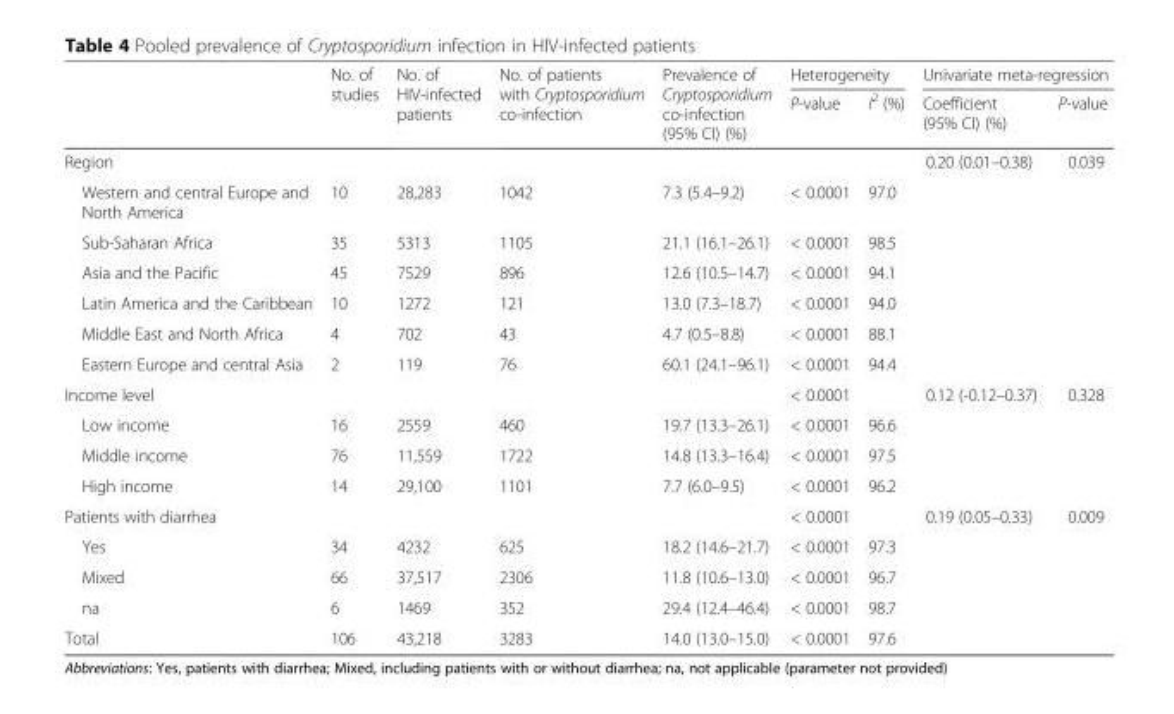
<table><thead><tr><td rowspan="2"></td><td rowspan="2">No. of studies</td><td rowspan="2">No. of HIV-infected patients</td><td rowspan="2">No. of patients with Cryptosporidium co-infection</td><td rowspan="2">Prevalence of Cryptosporidium co-infection (95% CI) (%)</td><td colspan="2">Heterogeneity</td><td colspan="2">Univariate meta-regression</td></tr><tr><td>P-value</td><td>I<sup>2</sup> (%)</td><td>Coefficient (95% CI) (%)</td><td>P-value</td></tr></thead><tbody><tr><td>Region</td><td></td><td></td><td></td><td></td><td></td><td></td><td>0.20 (0.01–0.38)</td><td>0.039</td></tr><tr><td>Western and central Europe and North America</td><td>10</td><td>28,283</td><td>1042</td><td>7.3 (5.4–9.2)</td><td>&lt; 0.0001</td><td>97.0</td><td></td><td></td></tr><tr><td>Sub-Saharan Africa</td><td>35</td><td>5313</td><td>1105</td><td>21.1 (16.1–26.1)</td><td>&lt; 0.0001</td><td>98.5</td><td></td><td></td></tr><tr><td>Asia and the Pacific</td><td>45</td><td>7529</td><td>896</td><td>12.6 (10.5–14.7)</td><td>&lt; 0.0001</td><td>94.1</td><td></td><td></td></tr><tr><td>Latin America and the Caribbean</td><td>10</td><td>1272</td><td>121</td><td>13.0 (7.3–18.7)</td><td>&lt; 0.0001</td><td>94.0</td><td></td><td></td></tr><tr><td>Middle East and North Africa</td><td>4</td><td>702</td><td>43</td><td>4.7 (0.5–8.8)</td><td>&lt; 0.0001</td><td>88.1</td><td></td><td></td></tr><tr><td>Eastern Europe and central Asia</td><td>2</td><td>119</td><td>76</td><td>60.1 (24.1–96.1)</td><td>&lt; 0.0001</td><td>94.4</td><td></td><td></td></tr><tr><td>Income level</td><td></td><td></td><td></td><td></td><td>&lt; 0.0001</td><td></td><td>0.12 (-0.12–0.37)</td><td>0.328</td></tr><tr><td>Low income</td><td>16</td><td>2559</td><td>460</td><td>19.7 (13.3–26.1)</td><td>&lt; 0.0001</td><td>96.6</td><td></td><td></td></tr><tr><td>Middle income</td><td>76</td><td>11,559</td><td>1722</td><td>14.8 (13.3–16.4)</td><td>&lt; 0.0001</td><td>97.5</td><td></td><td></td></tr><tr><td>High income</td><td>14</td><td>29,100</td><td>1101</td><td>7.7 (6.0–9.5)</td><td>&lt; 0.0001</td><td>96.2</td><td></td><td></td></tr><tr><td>Patients with diarrhea</td><td></td><td></td><td></td><td></td><td>&lt; 0.0001</td><td></td><td>0.19 (0.05–0.33)</td><td>0.009</td></tr><tr><td>Yes</td><td>34</td><td>4232</td><td>625</td><td>18.2 (14.6–21.7)</td><td>&lt; 0.0001</td><td>97.3</td><td></td><td></td></tr><tr><td>Mixed</td><td>66</td><td>37,517</td><td>2306</td><td>11.8 (10.6–13.0)</td><td>&lt; 0.0001</td><td>96.7</td><td></td><td></td></tr><tr><td>na</td><td>6</td><td>1469</td><td>352</td><td>29.4 (12.4–46.4)</td><td>&lt; 0.0001</td><td>98.7</td><td></td><td></td></tr><tr><td>Total</td><td>106</td><td>43,218</td><td>3283</td><td>14.0 (13.0–15.0)</td><td>&lt; 0.0001</td><td>97.6</td><td></td><td></td></tr></tbody></table>